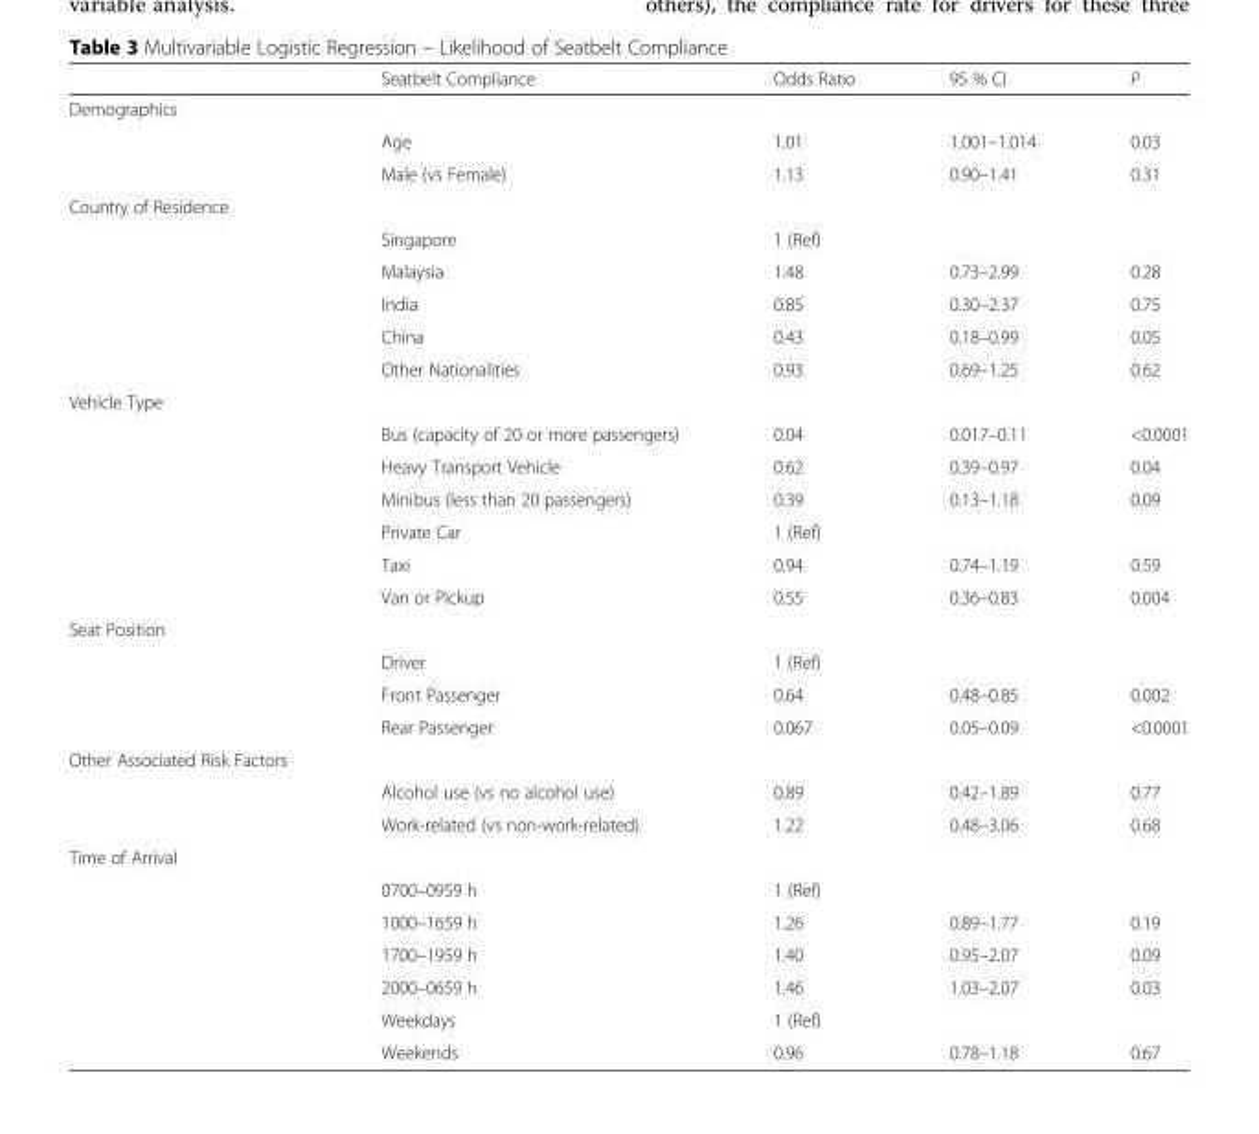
<table><thead><tr><td></td><td>Seatbelt Compliance</td><td>Odds Ratio</td><td>95 % CI</td><td>P</td></tr></thead><tbody><tr><td colspan="5">Demographics</td></tr><tr><td rowspan="2"></td><td>Age</td><td>1.01</td><td>1.001–1.014</td><td>0.03</td></tr><tr><td>Male (vs Female)</td><td>1.13</td><td>0.90–1.41</td><td>0.31</td></tr><tr><td colspan="5">Country of Residence</td></tr><tr><td rowspan="5"></td><td>Singapore</td><td>1 (Ref)</td><td></td><td></td></tr><tr><td>Malaysia</td><td>1.48</td><td>0.73–2.99</td><td>0.28</td></tr><tr><td>India</td><td>0.85</td><td>0.30–2.37</td><td>0.75</td></tr><tr><td>China</td><td>0.43</td><td>0.18–0.99</td><td>0.05</td></tr><tr><td>Other Nationalities</td><td>0.93</td><td>0.69–1.25</td><td>0.62</td></tr><tr><td colspan="5">Vehicle Type</td></tr><tr><td rowspan="6"></td><td>Bus (capacity of 20 or more passengers)</td><td>0.04</td><td>0.017–0.11</td><td>&lt;0.0001</td></tr><tr><td>Heavy Transport Vehicle</td><td>0.62</td><td>0.39–0.97</td><td>0.04</td></tr><tr><td>Minibus (less than 20 passengers)</td><td>0.39</td><td>0.13–1.18</td><td>0.09</td></tr><tr><td>Private Car</td><td>1 (Ref)</td><td></td><td></td></tr><tr><td>Taxi</td><td>0.94</td><td>0.74–1.19</td><td>0.59</td></tr><tr><td>Van or Pickup</td><td>0.55</td><td>0.36–0.83</td><td>0.004</td></tr><tr><td colspan="5">Seat Position</td></tr><tr><td rowspan="3"></td><td>Driver</td><td>1 (Ref)</td><td></td><td></td></tr><tr><td>Front Passenger</td><td>0.64</td><td>0.48–0.85</td><td>0.002</td></tr><tr><td>Rear Passenger</td><td>0.067</td><td>0.05–0.09</td><td>&lt;0.0001</td></tr><tr><td colspan="5">Other Associated Risk Factors</td></tr><tr><td rowspan="2"></td><td>Alcohol use (vs no alcohol use)</td><td>0.89</td><td>0.42–1.89</td><td>0.77</td></tr><tr><td>Work-related (vs non-work-related)</td><td>1.22</td><td>0.48–3.06</td><td>0.68</td></tr><tr><td colspan="5">Time of Arrival</td></tr><tr><td rowspan="6"></td><td>0700–0959 h</td><td>1 (Ref)</td><td></td><td></td></tr><tr><td>1000–1659 h</td><td>1.26</td><td>0.89–1.77</td><td>0.19</td></tr><tr><td>1700–1959 h</td><td>1.40</td><td>0.95–2.07</td><td>0.09</td></tr><tr><td>2000–0659 h</td><td>1.46</td><td>1.03–2.07</td><td>0.03</td></tr><tr><td>Weekdays</td><td>1 (Ref)</td><td></td><td></td></tr><tr><td>Weekends</td><td>0.96</td><td>0.78–1.18</td><td>0.67</td></tr></tbody></table>